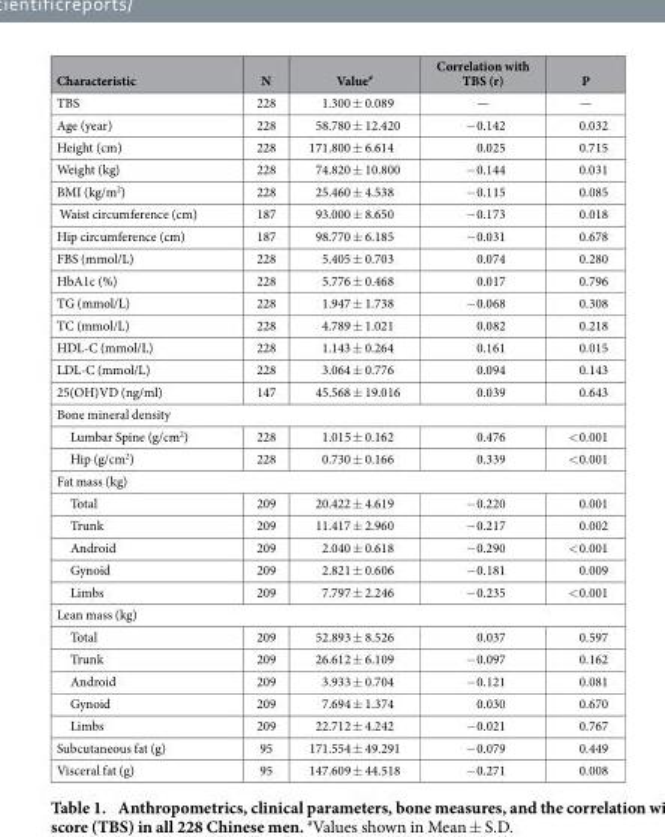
<table><thead><tr><td>Characteristic</td><td>N</td><td>Value<sup>#</sup></td><td>Correlation with TBS (r)</td><td>P</td></tr></thead><tbody><tr><td>TBS</td><td>228</td><td>1.300 ± 0.089</td><td>—</td><td>—</td></tr><tr><td>Age (year)</td><td>228</td><td>58.780 ± 12.420</td><td>− 0.142</td><td>0.032</td></tr><tr><td>Height (cm)</td><td>228</td><td>171.800 ± 6.614</td><td>0.025</td><td>0.715</td></tr><tr><td>Weight (kg)</td><td>228</td><td>74.820 ± 10.800</td><td>− 0.144</td><td>0.031</td></tr><tr><td>BMI (kg/m<sup>2</sup>)</td><td>228</td><td>25.460 ± 4.538</td><td>− 0.115</td><td>0.085</td></tr><tr><td>Waist circumference (cm)</td><td>187</td><td>93.000 ± 8.650</td><td>− 0.173</td><td>0.018</td></tr><tr><td>Hip circumference (cm)</td><td>187</td><td>98.770 ± 6.185</td><td>− 0.031</td><td>0.678</td></tr><tr><td>FBS (mmol/L)</td><td>228</td><td>5.405 ± 0.703</td><td>0.074</td><td>0.280</td></tr><tr><td>HbA1c (%)</td><td>228</td><td>5.776 ± 0.468</td><td>0.017</td><td>0.796</td></tr><tr><td>TG (mmol/L)</td><td>228</td><td>1.947 ± 1.738</td><td>− 0.068</td><td>0.308</td></tr><tr><td>TC (mmol/L)</td><td>228</td><td>4.789 ± 1.021</td><td>0.082</td><td>0.218</td></tr><tr><td>HDL-C (mmol/L)</td><td>228</td><td>1.143 ± 0.264</td><td>0.161</td><td>0.015</td></tr><tr><td>LDL-C (mmol/L)</td><td>228</td><td>3.064 ± 0.776</td><td>0.094</td><td>0.143</td></tr><tr><td>25(OH)VD (ng/ml)</td><td>147</td><td>45.568 ± 19.016</td><td>0.039</td><td>0.643</td></tr><tr><td colspan="5">Bone mineral density</td></tr><tr><td>Lumbar Spine (g/cm<sup>2</sup>)</td><td>228</td><td>1.015 ± 0.162</td><td>0.476</td><td>&lt; 0.001</td></tr><tr><td>Hip (g/cm<sup>2</sup>)</td><td>228</td><td>0.730 ± 0.166</td><td>0.339</td><td>&lt; 0.001</td></tr><tr><td colspan="5">Fat mass (kg)</td></tr><tr><td>Total</td><td>209</td><td>20.422 ± 4.619</td><td>− 0.220</td><td>0.001</td></tr><tr><td>Trunk</td><td>209</td><td>11.417 ± 2.960</td><td>− 0.217</td><td>0.002</td></tr><tr><td>Android</td><td>209</td><td>2.040 ± 0.618</td><td>− 0.290</td><td>&lt; 0.001</td></tr><tr><td>Gynoid</td><td>209</td><td>2.821 ± 0.606</td><td>− 0.181</td><td>0.009</td></tr><tr><td>Limbs</td><td>209</td><td>7.797 ± 2.246</td><td>− 0.235</td><td>&lt; 0.001</td></tr><tr><td colspan="5">Lean mass (kg)</td></tr><tr><td>Total</td><td>209</td><td>52.893 ± 8.526</td><td>0.037</td><td>0.597</td></tr><tr><td>Trunk</td><td>209</td><td>26.612 ± 6.109</td><td>− 0.097</td><td>0.162</td></tr><tr><td>Android</td><td>209</td><td>3.933 ± 0.704</td><td>− 0.121</td><td>0.081</td></tr><tr><td>Gynoid</td><td>209</td><td>7.694 ± 1.374</td><td>0.030</td><td>0.670</td></tr><tr><td>Limbs</td><td>209</td><td>22.712 ± 4.242</td><td>− 0.021</td><td>0.767</td></tr><tr><td>Subcutaneous fat (g)</td><td>95</td><td>171.554 ± 49.291</td><td>− 0.079</td><td>0.449</td></tr><tr><td>Visceral fat (g)</td><td>95</td><td>147.609 ± 44.518</td><td>− 0.271</td><td>0.008</td></tr></tbody></table>